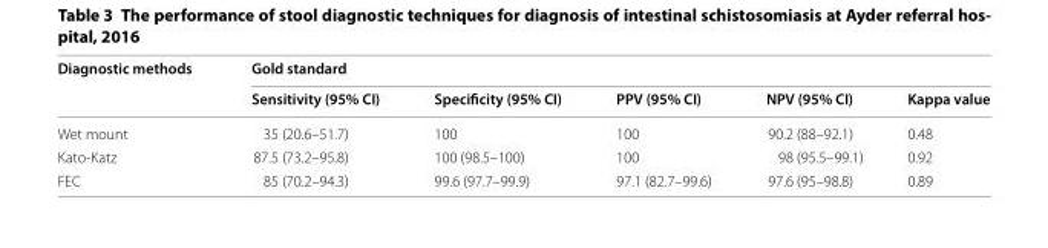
<table><thead><tr><td rowspan="2">Diagnostic methods</td><td colspan="5">Gold standard</td></tr><tr><td>Sensitivity (95% CI)</td><td>Specificity (95% CI)</td><td>PPV (95% CI)</td><td>NPV (95% CI)</td><td>Kappa value</td></tr></thead><tbody><tr><td>Wet mount</td><td>35 (20.6–51.7)</td><td>100</td><td>100</td><td>90.2 (88–92.1)</td><td>0.48</td></tr><tr><td>Kato-Katz</td><td>87.5 (73.2–95.8)</td><td>100 (98.5–100)</td><td>100</td><td>98 (95.5–99.1)</td><td>0.92</td></tr><tr><td>FEC</td><td>85 (70.2–94.3)</td><td>99.6 (97.7–99.9)</td><td>97.1 (82.7–99.6)</td><td>97.6 (95–98.8)</td><td>0.89</td></tr></tbody></table>